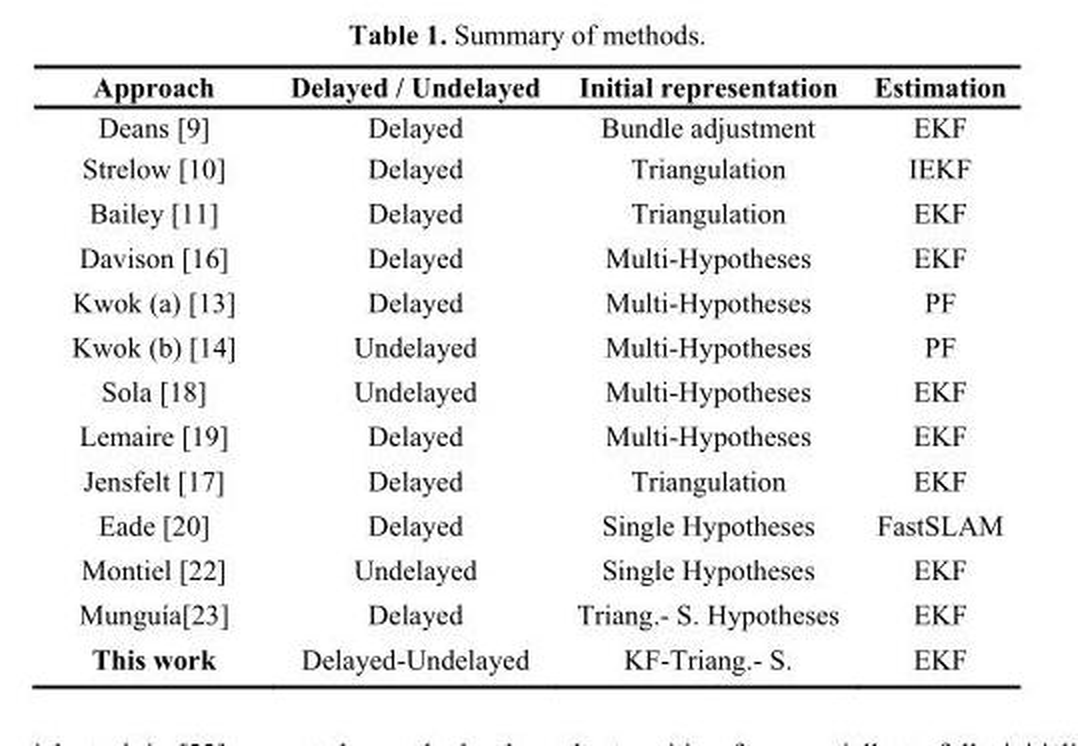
<table><thead><tr><td>Approach</td><td>Delayed / Undelayed</td><td>Initial representation</td><td>Estimation</td></tr></thead><tbody><tr><td>Deans [9]</td><td>Delayed</td><td>Bundle adjustment</td><td>EKF</td></tr><tr><td>Strelow [10]</td><td>Delayed</td><td>Triangulation</td><td>IEKF</td></tr><tr><td>Bailey [11]</td><td>Delayed</td><td>Triangulation</td><td>EKF</td></tr><tr><td>Davison [16]</td><td>Delayed</td><td>Multi-Hypotheses</td><td>EKF</td></tr><tr><td>Kwok (a) [13]</td><td>Delayed</td><td>Multi-Hypotheses</td><td>PF</td></tr><tr><td>Kwok (b) [14]</td><td>Undelayed</td><td>Multi-Hypotheses</td><td>PF</td></tr><tr><td>Sola [18]</td><td>Undelayed</td><td>Multi-Hypotheses</td><td>EKF</td></tr><tr><td>Lemaire [19]</td><td>Delayed</td><td>Multi-Hypotheses</td><td>EKF</td></tr><tr><td>Jensfelt [17]</td><td>Delayed</td><td>Triangulation</td><td>EKF</td></tr><tr><td>Eade [20]</td><td>Delayed</td><td>Single Hypotheses</td><td>FastSLAM</td></tr><tr><td>Montiel [22]</td><td>Undelayed</td><td>Single Hypotheses</td><td>EKF</td></tr><tr><td>Munguía[23]</td><td>Delayed</td><td>Triang.- S. Hypotheses</td><td>EKF</td></tr><tr><td>This work</td><td>Delayed-Undelayed</td><td>KF-Triang.- S.</td><td>EKF</td></tr></tbody></table>